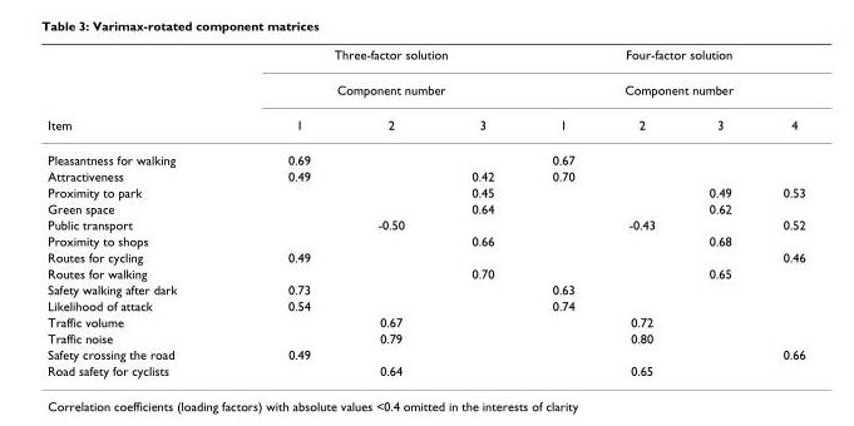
<table><thead><tr><td rowspan="3">Item</td><td rowspan="2" colspan="3">Three-factor solution Component number</td><td rowspan="2" colspan="4">Four-factor solution Component number</td></tr><tr></tr><tr><td>1</td><td>2</td><td>3</td><td>1</td><td>2</td><td>3</td><td>4</td></tr></thead><tbody><tr><td>Pleasantness for walking</td><td>0.69</td><td></td><td></td><td>0.67</td><td></td><td></td><td></td></tr><tr><td>Attractiveness</td><td>0.49</td><td></td><td>0.42</td><td>0.70</td><td></td><td></td><td></td></tr><tr><td>Proximity to park</td><td></td><td></td><td>0.45</td><td></td><td></td><td>0.49</td><td>0.53</td></tr><tr><td>Green space</td><td></td><td></td><td>0.64</td><td></td><td></td><td>0.62</td><td></td></tr><tr><td>Public transport</td><td></td><td>-0.50</td><td></td><td></td><td>-0.43</td><td></td><td>0.52</td></tr><tr><td>Proximity to shops</td><td></td><td></td><td>0.66</td><td></td><td></td><td>0.68</td><td></td></tr><tr><td>Routes for cycling</td><td>0.49</td><td></td><td></td><td></td><td></td><td></td><td>0.46</td></tr><tr><td>Routes for walking</td><td></td><td></td><td>0.70</td><td></td><td></td><td>0.65</td><td></td></tr><tr><td>Safety walking after dark</td><td>0.73</td><td></td><td></td><td>0.63</td><td></td><td></td><td></td></tr><tr><td>Likelihood of attack</td><td>0.54</td><td></td><td></td><td>0.74</td><td></td><td></td><td></td></tr><tr><td>Traffic volume</td><td></td><td>0.67</td><td></td><td></td><td>0.72</td><td></td><td></td></tr><tr><td>Traffic noise</td><td></td><td>0.79</td><td></td><td></td><td>0.80</td><td></td><td></td></tr><tr><td>Safety crossing the road</td><td>0.49</td><td></td><td></td><td></td><td></td><td></td><td>0.66</td></tr><tr><td>Road safety for cyclists</td><td></td><td>0.64</td><td></td><td></td><td>0.65</td><td></td><td></td></tr></tbody></table>